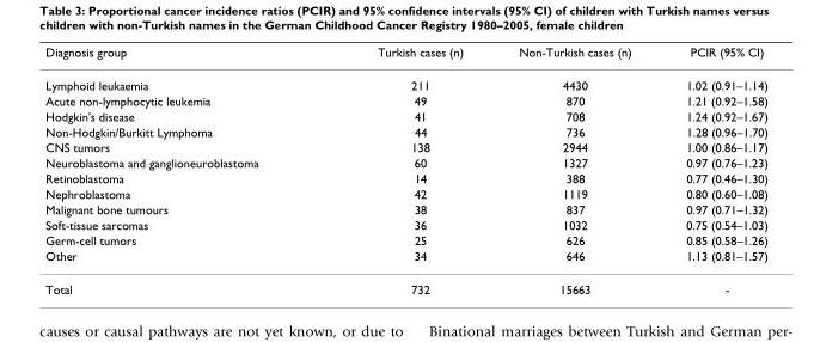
<table><thead><tr><td>Diagnosis group</td><td>Turkish cases (n)</td><td>Non-Turkish cases (n)</td><td>PCIR (95% CI)</td></tr></thead><tbody><tr><td>Lymphoid leukaemia</td><td>211</td><td>4430</td><td>1.02 (0.91–1.14)</td></tr><tr><td>Acute non-lymphocytic leukemia</td><td>49</td><td>870</td><td>1.21 (0.92–1.58)</td></tr><tr><td>Hodgkin&#x27;s disease</td><td>41</td><td>708</td><td>1.24 (0.92–1.67)</td></tr><tr><td>Non-Hodgkin/Burkitt Lymphoma</td><td>44</td><td>736</td><td>1.28 (0.96–1.70)</td></tr><tr><td>CNS tumors</td><td>138</td><td>2944</td><td>1.00 (0.86–1.17)</td></tr><tr><td>Neuroblastoma and ganglioneuroblastoma</td><td>60</td><td>1327</td><td>0.97 (0.76–1.23)</td></tr><tr><td>Retinoblastoma</td><td>14</td><td>388</td><td>0.77 (0.46–1.30)</td></tr><tr><td>Nephroblastoma</td><td>42</td><td>1119</td><td>0.80 (0.60–1.08)</td></tr><tr><td>Malignant bone tumours</td><td>38</td><td>837</td><td>0.97 (0.71–1.32)</td></tr><tr><td>Soft-tissue sarcomas</td><td>36</td><td>1032</td><td>0.75 (0.54–1.03)</td></tr><tr><td>Germ-cell tumors</td><td>25</td><td>626</td><td>0.85 (0.58–1.26)</td></tr><tr><td>Other</td><td>34</td><td>646</td><td>1.13 (0.81–1.57)</td></tr><tr><td>Total</td><td>732</td><td>15663</td><td>-</td></tr></tbody></table>